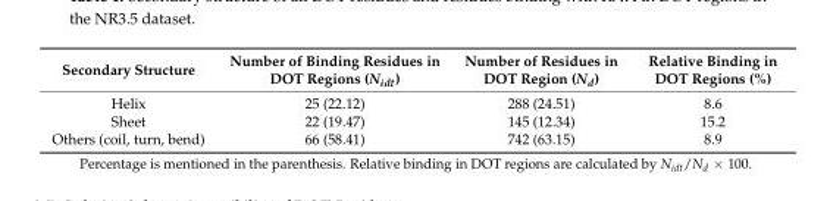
<table><thead><tr><td>Secondary Structure</td><td>Number of Binding Residues in DOT Regions (N<sub>idt</sub>)</td><td>Number of Residues in DOT Region (N<sub>d</sub>)</td><td>Relative Binding in DOT Regions (%)</td></tr></thead><tbody><tr><td>Helix</td><td>25 (22.12)</td><td>288 (24.51)</td><td>8.6</td></tr><tr><td>Sheet</td><td>22 (19.47)</td><td>145 (12.34)</td><td>15.2</td></tr><tr><td>Others (coil, turn, bend)</td><td>66 (58.41)</td><td>742 (63.15)</td><td>8.9</td></tr></tbody></table>